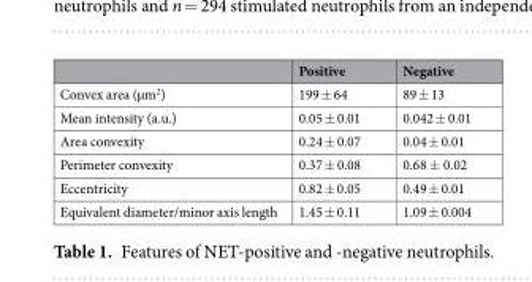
<table><thead><tr><td></td><td>Positive</td><td>Negative</td></tr></thead><tbody><tr><td>Convex area (µm<sup>2</sup>)</td><td>199 ± 64</td><td>89 ± 13</td></tr><tr><td>Mean intensity (a.u.)</td><td>0.05 ± 0.01</td><td>0.042 ± 0.01</td></tr><tr><td>Area convexity</td><td>0.24 ± 0.07</td><td>0.04 ± 0.01</td></tr><tr><td>Perimeter convexity</td><td>0.37 ± 0.08</td><td>0.68 ± 0.02</td></tr><tr><td>Eccentricity</td><td>0.82 ± 0.05</td><td>0.49 ± 0.01</td></tr><tr><td>Equivalent diameter/minor axis length</td><td>1.45 ± 0.11</td><td>1.09 ± 0.004</td></tr></tbody></table>